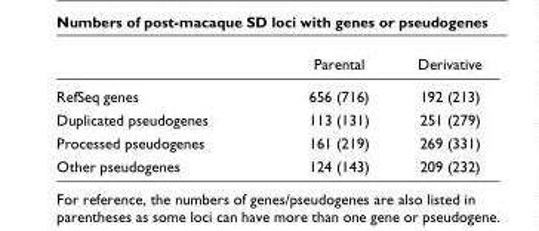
<table><thead><tr><td></td><td>Parental</td><td>Derivative</td></tr></thead><tbody><tr><td>RefSeq genes</td><td>656 (716)</td><td>192 (213)</td></tr><tr><td>Duplicated pseudogenes</td><td>113 (131)</td><td>251 (279)</td></tr><tr><td>Processed pseudogenes</td><td>161 (219)</td><td>269 (331)</td></tr><tr><td>Other pseudogenes</td><td>124 (143)</td><td>209 (232)</td></tr></tbody></table>